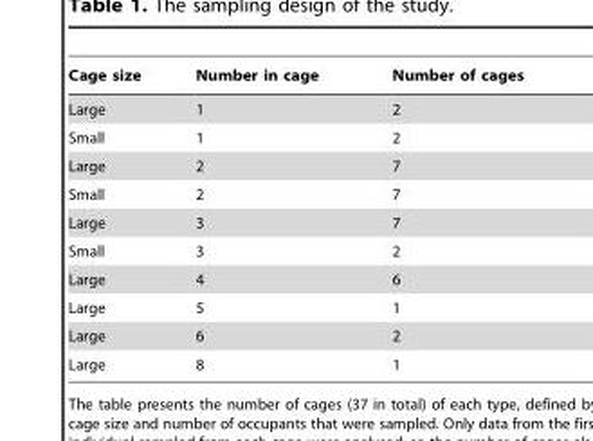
<table><thead><tr><td>Cage size</td><td>Number in cage</td><td>Number of cages</td></tr></thead><tbody><tr><td>Large</td><td>1</td><td>2</td></tr><tr><td>Small</td><td>1</td><td>2</td></tr><tr><td>Large</td><td>2</td><td>7</td></tr><tr><td>Small</td><td>2</td><td>7</td></tr><tr><td>Large</td><td>3</td><td>7</td></tr><tr><td>Small</td><td>3</td><td>2</td></tr><tr><td>Large</td><td>4</td><td>6</td></tr><tr><td>Large</td><td>5</td><td>1</td></tr><tr><td>Large</td><td>6</td><td>2</td></tr><tr><td>Large</td><td>8</td><td>1</td></tr></tbody></table>